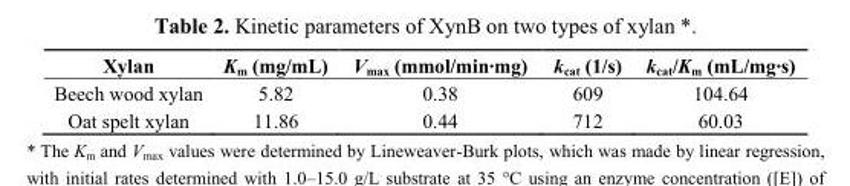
<table><thead><tr><td>Xylan</td><td>K<sub>m</sub> (mg/mL)</td><td>V<sub>max</sub> (mmol/min·mg)</td><td>k<sub>cat</sub> (1/s)</td><td>k<sub>cat</sub>/K<sub>m</sub> (mL/mg·s)</td></tr></thead><tbody><tr><td>Beech wood xylan</td><td>5.82</td><td>0.38</td><td>609</td><td>104.64</td></tr><tr><td>Oat spelt xylan</td><td>11.86</td><td>0.44</td><td>712</td><td>60.03</td></tr></tbody></table>